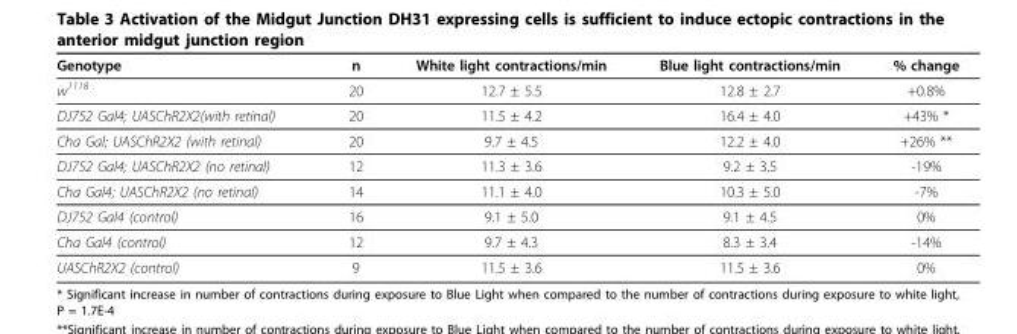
<table><thead><tr><td>Genotype</td><td>n</td><td>White light contractions/min</td><td>Blue light contractions/min</td><td>% change</td></tr></thead><tbody><tr><td>w<sup>1118</sup></td><td>20</td><td>12.7 ± 5.5</td><td>12.8 ± 2.7</td><td>+0.8%</td></tr><tr><td>DJ752 Gal4; UASChR2X2(with retinal)</td><td>20</td><td>11.5 ± 4.2</td><td>16.4 ± 4.0</td><td>+43% *</td></tr><tr><td>Cha Gal; UASChR2X2 (with retinal)</td><td>20</td><td>9.7 ± 4.5</td><td>12.2 ± 4.0</td><td>+26% **</td></tr><tr><td>DJ752 Gal4; UASChR2X2 (no retinal)</td><td>12</td><td>11.3 ± 3.6</td><td>9.2 ± 3.5</td><td>-19%</td></tr><tr><td>Cha Gal4; UASChR2X2 (no retinal)</td><td>14</td><td>11.1 ± 4.0</td><td>10.3 ± 5.0</td><td>-7%</td></tr><tr><td>DJ752 Gal4 (control)</td><td>16</td><td>9.1 ± 5.0</td><td>9.1 ± 4.5</td><td>0%</td></tr><tr><td>Cha Gal4 (control)</td><td>12</td><td>9.7 ± 4.3</td><td>8.3 ± 3.4</td><td>-14%</td></tr><tr><td>UASChR2X2 (control)</td><td>9</td><td>11.5 ± 3.6</td><td>11.5 ± 3.6</td><td>0%</td></tr></tbody></table>